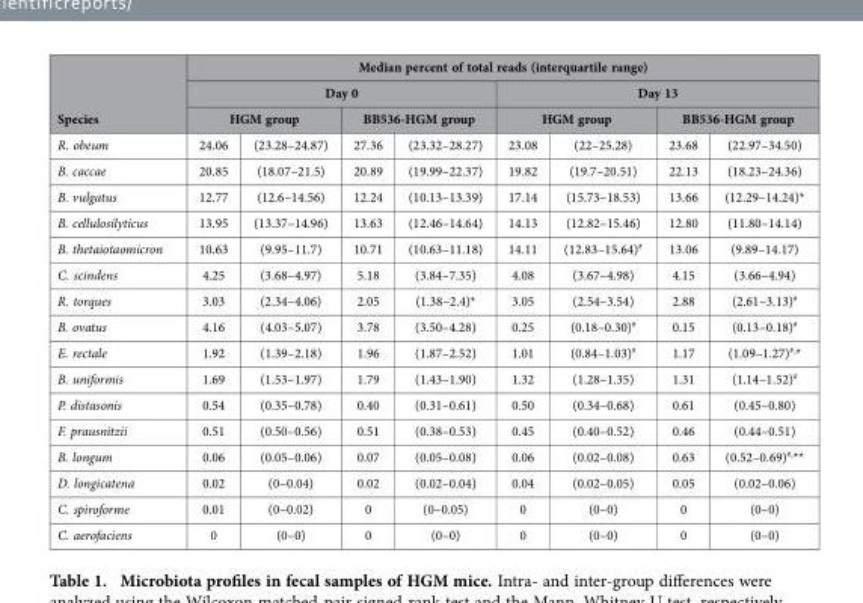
<table><thead><tr><td rowspan="4">Species R. obeum</td><td colspan="8">Median percent of total reads (interquartile range)</td></tr><tr><td colspan="4">Day 0</td><td colspan="4">Day 13</td></tr><tr><td colspan="2">HGM group</td><td colspan="2">BB536-HGM group</td><td colspan="2">HGM group</td><td colspan="2">BB536-HGM group</td></tr><tr><td>24.06</td><td>(23.28–24.87)</td><td>27.36</td><td>(23.32–28.27)</td><td>23.08</td><td>(22–25.28)</td><td>23.68</td><td>(22.97–34.50)</td></tr></thead><tbody><tr><td>B. caccae</td><td>20.85</td><td>(18.07–21.5)</td><td>20.89</td><td>(19.99–22.37)</td><td>19.82</td><td>(19.7–20.51)</td><td>22.13</td><td>(18.23–24.36)</td></tr><tr><td>B. vulgatus</td><td>12.77</td><td>(12.6–14.56)</td><td>12.24</td><td>(10.13–13.39)</td><td>17.14</td><td>(15.73–18.53)</td><td>13.66</td><td>(12.29–14.24)*</td></tr><tr><td>B. cellulosilyticus</td><td>13.95</td><td>(13.37–14.96)</td><td>13.63</td><td>(12.46–14.64)</td><td>14.13</td><td>(12.82–15.46)</td><td>12.80</td><td>(11.80–14.14)</td></tr><tr><td>B. thetaiotaomicron</td><td>10.63</td><td>(9.95–11.7)</td><td>10.71</td><td>(10.63–11.18)</td><td>14.11</td><td>(12.83–15.64)<sup>#</sup></td><td>13.06</td><td>(9.89–14.17)</td></tr><tr><td>C. scindens</td><td>4.25</td><td>(3.68–4.97)</td><td>5.18</td><td>(3.84–7.35)</td><td>4.08</td><td>(3.67–4.98)</td><td>4.15</td><td>(3.66–4.94)</td></tr><tr><td>R. torques</td><td>3.03</td><td>(2.34–4.06)</td><td>2.05</td><td>(1.38–2.4)*</td><td>3.05</td><td>(2.54–3.54)</td><td>2.88</td><td>(2.61–3.13)<sup>#</sup></td></tr><tr><td>B. ovatus</td><td>4.16</td><td>(4.03–5.07)</td><td>3.78</td><td>(3.50–4.28)</td><td>0.25</td><td>(0.18–0.30)<sup>#</sup></td><td>0.15</td><td>(0.13–0.18)<sup>#</sup></td></tr><tr><td>E. rectale</td><td>1.92</td><td>(1.39–2.18)</td><td>1.96</td><td>(1.87–2.52)</td><td>1.01</td><td>(0.84–1.03)<sup>#</sup></td><td>1.17</td><td>(1.09–1.27)<sup>#,</sup>*</td></tr><tr><td>B. uniformis</td><td>1.69</td><td>(1.53–1.97)</td><td>1.79</td><td>(1.43–1.90)</td><td>1.32</td><td>(1.28–1.35)</td><td>1.31</td><td>(1.14–1.52)<sup>#</sup></td></tr><tr><td>P. distasonis</td><td>0.54</td><td>(0.35–0.78)</td><td>0.40</td><td>(0.31–0.61)</td><td>0.50</td><td>(0.34–0.68)</td><td>0.61</td><td>(0.45–0.80)</td></tr><tr><td>F. prausnitzii</td><td>0.51</td><td>(0.50–0.56)</td><td>0.51</td><td>(0.38–0.53)</td><td>0.45</td><td>(0.40–0.52)</td><td>0.46</td><td>(0.44–0.51)</td></tr><tr><td>B. longum</td><td>0.06</td><td>(0.05–0.06)</td><td>0.07</td><td>(0.05–0.08)</td><td>0.06</td><td>(0.02–0.08)</td><td>0.63</td><td>(0.52–0.69)<sup>#,</sup>**</td></tr><tr><td>D. longicatena</td><td>0.02</td><td>(0–0.04)</td><td>0.02</td><td>(0.02–0.04)</td><td>0.04</td><td>(0.02–0.05)</td><td>0.05</td><td>(0.02–0.06)</td></tr><tr><td>C. spiroforme</td><td>0.01</td><td>(0–0.02)</td><td>0</td><td>(0–0.05)</td><td>0</td><td>(0–0)</td><td>0</td><td>(0–0)</td></tr><tr><td>C. aerofaciens</td><td>0</td><td>(0–0)</td><td>0</td><td>(0–0)</td><td>0</td><td>(0–0)</td><td>0</td><td>(0–0)</td></tr></tbody></table>